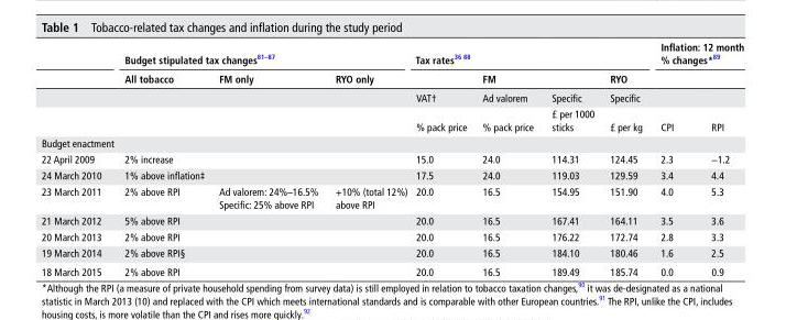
<table><thead><tr><td rowspan="3"></td><td colspan="3">budget stipulated tax changes<sup>81–87</sup></td><td colspan="4">Tax rates<sup>36 88</sup></td><td colspan="2">Inflation: 12 month % changes*<sup>89</sup></td></tr><tr><td rowspan="2">All tobacco</td><td rowspan="2">FM only</td><td rowspan="2">RYO only</td><td rowspan="2">VAT†</td><td colspan="2">FM</td><td rowspan="2">RYO Specific</td><td rowspan="2"></td><td rowspan="2"></td></tr><tr><td>Ad valorem</td><td>Specific</td></tr></thead><tbody><tr><td></td><td></td><td></td><td></td><td>% pack price</td><td>% pack price</td><td>£ per 1000 sticks</td><td>£ per kg</td><td>CPI</td><td>RPI</td></tr><tr><td colspan="10">Budget enactment</td></tr><tr><td>22 April 2009</td><td>2% increase</td><td></td><td></td><td>15.0</td><td>24.0</td><td>114.31</td><td>124.45</td><td>2.3</td><td>−1.2</td></tr><tr><td>24 March 2010</td><td>1% above inflation‡</td><td></td><td></td><td>17.5</td><td>24.0</td><td>119.03</td><td>129.59</td><td>3.4</td><td>4.4</td></tr><tr><td>23 March 2011</td><td>2% above RPI</td><td>Ad valorem: 24%–16.5% Specific: 25% above RPI</td><td>+10% (total 12%) above RPI</td><td>20.0</td><td>16.5</td><td>154.95</td><td>151.90</td><td>4.0</td><td>5.3</td></tr><tr><td>21 March 2012</td><td>5% above RPI</td><td></td><td></td><td>20.0</td><td>16.5</td><td>167.41</td><td>164.11</td><td>3.5</td><td>3.6</td></tr><tr><td>20 March 2013</td><td>2% above RPI</td><td></td><td></td><td>20.0</td><td>16.5</td><td>176.22</td><td>172.74</td><td>2.8</td><td>3.3</td></tr><tr><td>19 March 2014</td><td>2% above RPI§</td><td></td><td></td><td>20.0</td><td>16.5</td><td>184.10</td><td>180.46</td><td>1.6</td><td>2.5</td></tr><tr><td>18 March 2015</td><td>2% above RPI</td><td></td><td></td><td>20.0</td><td>16.5</td><td>189.49</td><td>185.74</td><td>0.0</td><td>0.9</td></tr></tbody></table>